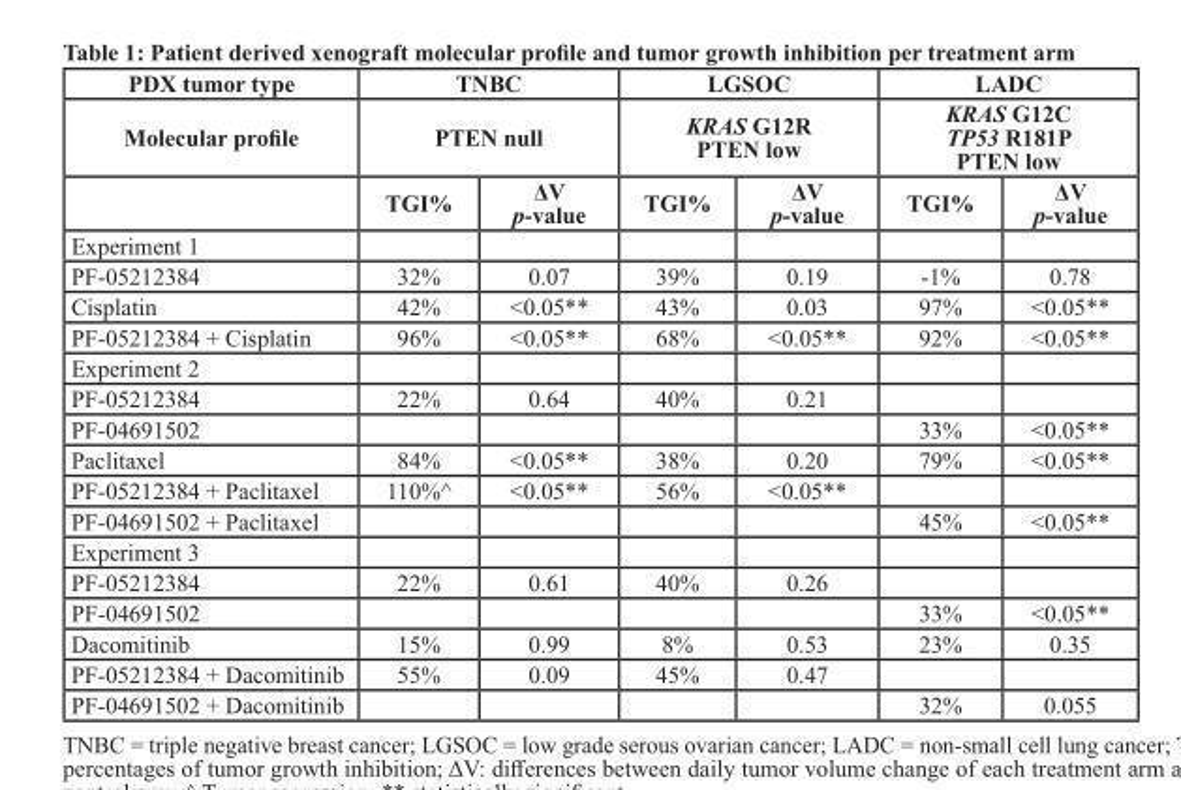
<table><thead><tr><td rowspan="3">PDX tumor type Molecular profile</td><td rowspan="2" colspan="2">TNBC PTEN null</td><td rowspan="2" colspan="2">LGSOC KRAS G12R PTEN low</td><td rowspan="2" colspan="2">LADC KRAS G12C TP53 R181P PTEN low</td></tr><tr></tr><tr><td>TGI%</td><td>ΔV p-value</td><td>TGI%</td><td>ΔV p-value</td><td>TGI%</td><td>ΔV p-value</td></tr></thead><tbody><tr><td colspan="7">Experiment 1</td></tr><tr><td>PF-05212384</td><td>32%</td><td>0.07</td><td>39%</td><td>0.19</td><td>-1%</td><td>0.78</td></tr><tr><td>Cisplatin</td><td>42%</td><td>&lt;0.05**</td><td>43%</td><td>0.03</td><td>97%</td><td>&lt;0.05**</td></tr><tr><td>PF-05212384 + Cisplatin</td><td>96%</td><td>&lt;0.05**</td><td>68%</td><td>&lt;0.05**</td><td>92%</td><td>&lt;0.05**</td></tr><tr><td colspan="7">Experiment 2</td></tr><tr><td>PF-05212384</td><td>22%</td><td>0.64</td><td>40%</td><td>0.21</td><td></td><td></td></tr><tr><td>PF-04691502</td><td></td><td></td><td></td><td></td><td>33%</td><td>&lt;0.05**</td></tr><tr><td>Paclitaxel</td><td>84%</td><td>&lt;0.05**</td><td>38%</td><td>0.20</td><td>79%</td><td>&lt;0.05**</td></tr><tr><td>PF-05212384 + Paclitaxel</td><td>110%^</td><td>&lt;0.05**</td><td>56%</td><td>&lt;0.05**</td><td></td><td></td></tr><tr><td>PF-04691502 + Paclitaxel</td><td></td><td></td><td></td><td></td><td>45%</td><td>&lt;0.05**</td></tr><tr><td colspan="7">Experiment 3</td></tr><tr><td>PF-05212384</td><td>22%</td><td>0.61</td><td>40%</td><td>0.26</td><td></td><td></td></tr><tr><td>PF-04691502</td><td></td><td></td><td></td><td></td><td>33%</td><td>&lt;0.05**</td></tr><tr><td>Dacomitinib</td><td>15%</td><td>0.99</td><td>8%</td><td>0.53</td><td>23%</td><td>0.35</td></tr><tr><td>PF-05212384 + Dacomitinib</td><td>55%</td><td>0.09</td><td>45%</td><td>0.47</td><td></td><td></td></tr><tr><td>PF-04691502 + Dacomitinib</td><td></td><td></td><td></td><td></td><td>32%</td><td>0.055</td></tr></tbody></table>